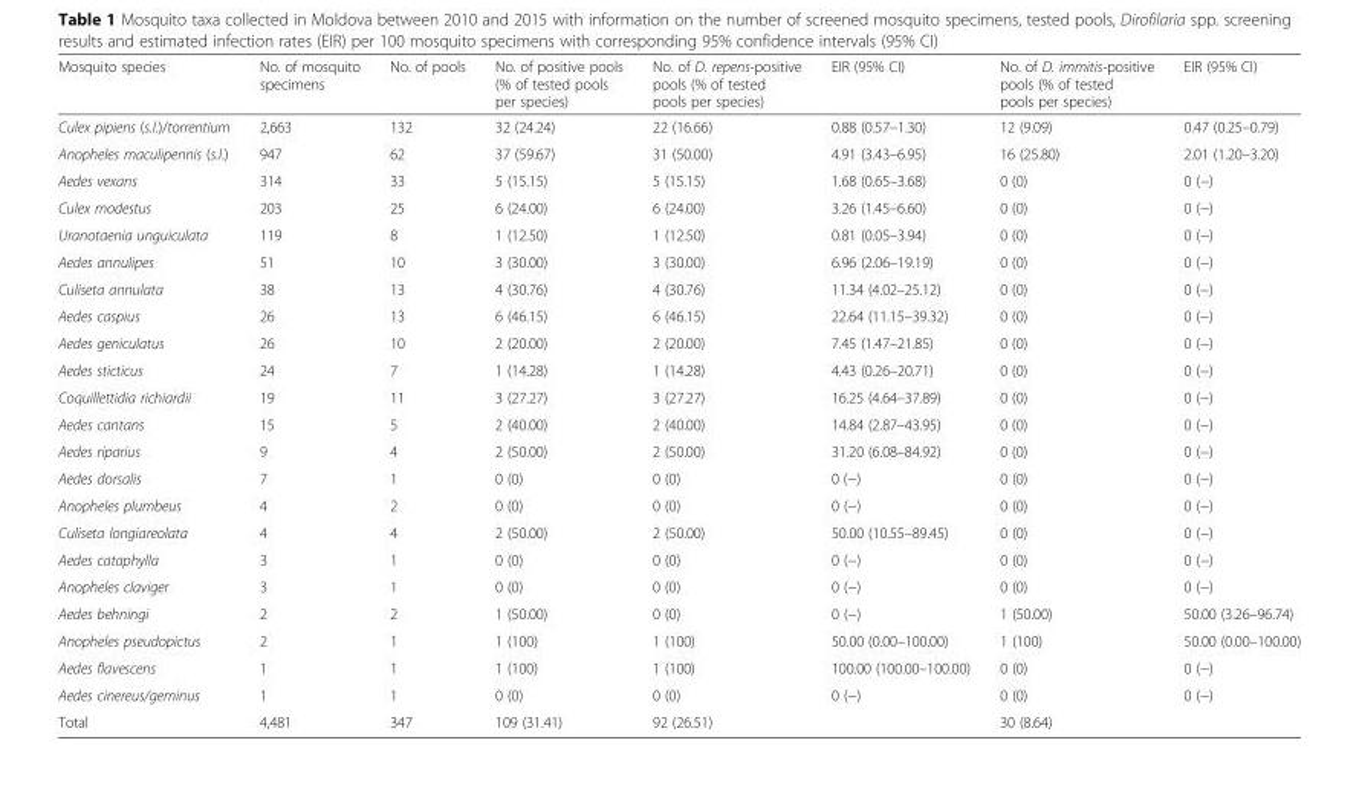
<table><thead><tr><td>Mosquito species</td><td>No. of mosquito specimens</td><td>No. of pools</td><td>No. of positive pools (% of tested pools per species)</td><td>No. of D. repens-positive pools (% of tested pools per species)</td><td>EIR (95% CI)</td><td>No. of D. immitis-positive pools (% of tested pools per species)</td><td>EIR (95% CI)</td></tr></thead><tbody><tr><td>Culex pipiens (s.l.)/torrentium</td><td>2,663</td><td>132</td><td>32 (24.24)</td><td>22 (16.66)</td><td>0.88 (0.57–1.30)</td><td>12 (9.09)</td><td>0.47 (0.25–0.79)</td></tr><tr><td>Anopheles maculipennis (s.l.)</td><td>947</td><td>62</td><td>37 (59.67)</td><td>31 (50.00)</td><td>4.91 (3.43–6.95)</td><td>16 (25.80)</td><td>2.01 (1.20–3.20)</td></tr><tr><td>Aedes vexans</td><td>314</td><td>33</td><td>5 (15.15)</td><td>5 (15.15)</td><td>1.68 (0.65–3.68)</td><td>0 (0)</td><td>0 (−)</td></tr><tr><td>Culex modestus</td><td>203</td><td>25</td><td>6 (24.00)</td><td>6 (24.00)</td><td>3.26 (1.45–6.60)</td><td>0 (0)</td><td>0 (−)</td></tr><tr><td>Uranotaenia unguiculata</td><td>119</td><td>8</td><td>1 (12.50)</td><td>1 (12.50)</td><td>0.81 (0.05–3.94)</td><td>0 (0)</td><td>0 (−)</td></tr><tr><td>Aedes annulipes</td><td>51</td><td>10</td><td>3 (30.00)</td><td>3 (30.00)</td><td>6.96 (2.06–19.19)</td><td>0 (0)</td><td>0 (−)</td></tr><tr><td>Culiseta annulata</td><td>38</td><td>13</td><td>4 (30.76)</td><td>4 (30.76)</td><td>11.34 (4.02–25.12)</td><td>0 (0)</td><td>0 (−)</td></tr><tr><td>Aedes caspius</td><td>26</td><td>13</td><td>6 (46.15)</td><td>6 (46.15)</td><td>22.64 (11.15–39.32)</td><td>0 (0)</td><td>0 (−)</td></tr><tr><td>Aedes geniculatus</td><td>26</td><td>10</td><td>2 (20.00)</td><td>2 (20.00)</td><td>7.45 (1.47–21.85)</td><td>0 (0)</td><td>0 (−)</td></tr><tr><td>Aedes sticticus</td><td>24</td><td>7</td><td>1 (14.28)</td><td>1 (14.28)</td><td>4.43 (0.26–20.71)</td><td>0 (0)</td><td>0 (−)</td></tr><tr><td>Coquillettidia richiardii</td><td>19</td><td>11</td><td>3 (27.27)</td><td>3 (27.27)</td><td>16.25 (4.64–37.89)</td><td>0 (0)</td><td>0 (−)</td></tr><tr><td>Aedes cantans</td><td>15</td><td>5</td><td>2 (40.00)</td><td>2 (40.00)</td><td>14.84 (2.87–43.95)</td><td>0 (0)</td><td>0 (−)</td></tr><tr><td>Aedes riparius</td><td>9</td><td>4</td><td>2 (50.00)</td><td>2 (50.00)</td><td>31.20 (6.08–84.92)</td><td>0 (0)</td><td>0 (−)</td></tr><tr><td>Aedes dorsalis</td><td>7</td><td>1</td><td>0 (0)</td><td>0 (0)</td><td>0 (−)</td><td>0 (0)</td><td>0 (−)</td></tr><tr><td>Anopheles plumbeus</td><td>4</td><td>2</td><td>0 (0)</td><td>0 (0)</td><td>0 (−)</td><td>0 (0)</td><td>0 (−)</td></tr><tr><td>Culiseta longiareolata</td><td>4</td><td>4</td><td>2 (50.00)</td><td>2 (50.00)</td><td>50.00 (10.55–89.45)</td><td>0 (0)</td><td>0 (−)</td></tr><tr><td>Aedes cataphylla</td><td>3</td><td>1</td><td>0 (0)</td><td>0 (0)</td><td>0 (−)</td><td>0 (0)</td><td>0 (−)</td></tr><tr><td>Anopheles claviger</td><td>3</td><td>1</td><td>0 (0)</td><td>0 (0)</td><td>0 (−)</td><td>0 (0)</td><td>0 (−)</td></tr><tr><td>Aedes behningi</td><td>2</td><td>2</td><td>1 (50.00)</td><td>0 (0)</td><td>0 (−)</td><td>1 (50.00)</td><td>50.00 (3.26–96.74)</td></tr><tr><td>Anopheles pseudopictus</td><td>2</td><td>1</td><td>1 (100)</td><td>1 (100)</td><td>50.00 (0.00–100.00)</td><td>1 (100)</td><td>50.00 (0.00–100.00)</td></tr><tr><td>Aedes flavescens</td><td>1</td><td>1</td><td>1 (100)</td><td>1 (100)</td><td>100.00 (100.00–100.00)</td><td>0 (0)</td><td>0 (−)</td></tr><tr><td>Aedes cinereus/geminus</td><td>1</td><td>1</td><td>0 (0)</td><td>0 (0)</td><td>0 (−)</td><td>0 (0)</td><td>0 (−)</td></tr><tr><td>Total</td><td>4,481</td><td>347</td><td>109 (31.41)</td><td>92 (26.51)</td><td></td><td>30 (8.64)</td><td></td></tr></tbody></table>